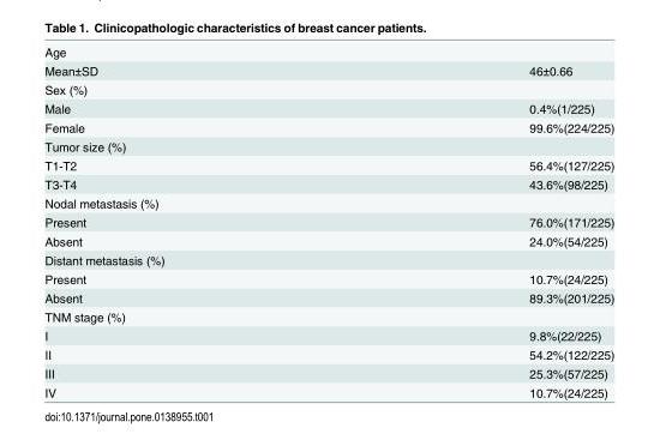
<table><tbody><tr><td colspan="2">Age</td></tr><tr><td>Mean±SD</td><td>46±0.66</td></tr><tr><td colspan="2">Sex (%)</td></tr><tr><td>Male</td><td>0.4%(1/225)</td></tr><tr><td>Female</td><td>99.6%(224/225)</td></tr><tr><td colspan="2">Tumor size (%)</td></tr><tr><td>T1-T2</td><td>56.4%(127/225)</td></tr><tr><td>T3-T4</td><td>43.6%(98/225)</td></tr><tr><td colspan="2">Nodal metastasis (%)</td></tr><tr><td>Present</td><td>76.0%(171/225)</td></tr><tr><td>Absent</td><td>24.0%(54/225)</td></tr><tr><td colspan="2">Distant metastasis (%)</td></tr><tr><td>Present</td><td>10.7%(24/225)</td></tr><tr><td>Absent</td><td>89.3%(201/225)</td></tr><tr><td colspan="2">TNM stage (%)</td></tr><tr><td>I</td><td>9.8%(22/225)</td></tr><tr><td>II</td><td>54.2%(122/225)</td></tr><tr><td>III</td><td>25.3%(57/225)</td></tr><tr><td>IV</td><td>10.7%(24/225)</td></tr></tbody></table>